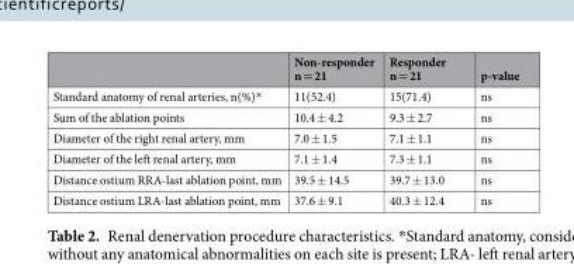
<table><thead><tr><td></td><td>Non-responder n = 21</td><td>Responder n = 21</td><td>p-value</td></tr></thead><tbody><tr><td>Standard anatomy of renal arteries, n(%)*</td><td>11(52.4)</td><td>15(71.4)</td><td>ns</td></tr><tr><td>Sum of the ablation points</td><td>10.4 ± 4.2</td><td>9.3 ± 2.7</td><td>ns</td></tr><tr><td>Diameter of the right renal artery, mm</td><td>7.0 ± 1.5</td><td>7.1 ± 1.1</td><td>ns</td></tr><tr><td>Diameter of the left renal artery, mm</td><td>7.1 ± 1.4</td><td>7.3 ± 1.1</td><td>ns</td></tr><tr><td>Distance ostium RRA-last ablation point, mm</td><td>39.5 ± 14.5</td><td>39.7 ± 13.0</td><td>ns</td></tr><tr><td>Distance ostium LRA-last ablation point, mm</td><td>37.6 ± 9.1</td><td>40.3 ± 12.4</td><td>ns</td></tr></tbody></table>